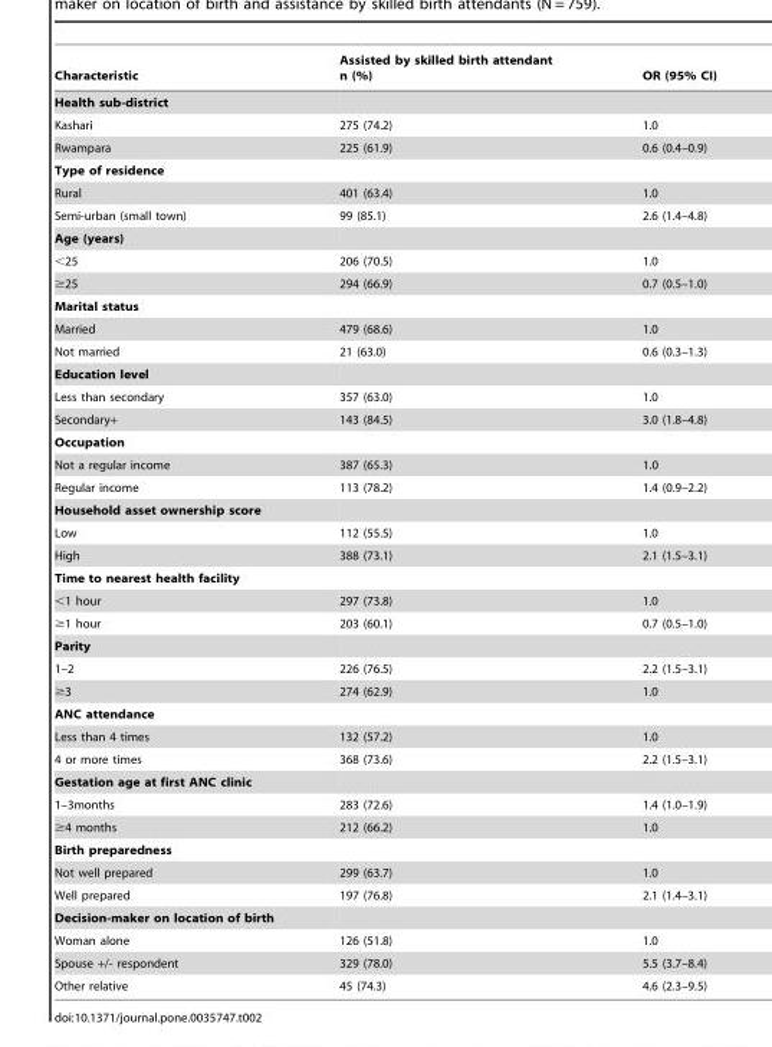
<table><thead><tr><td>Characteristic</td><td>Assisted by skilled birth attendant n (%)</td><td>OR (95% CI)</td></tr></thead><tbody><tr><td colspan="3">Health sub-district</td></tr><tr><td>Kashari</td><td>275 (74.2)</td><td>1.0</td></tr><tr><td>Rwampara</td><td>225 (61.9)</td><td>0.6 (0.4–0.9)</td></tr><tr><td colspan="3">Type of residence</td></tr><tr><td>Rural</td><td>401 (63.4)</td><td>1.0</td></tr><tr><td>Semi-urban (small town)</td><td>99 (85.1)</td><td>2.6 (1.4–4.8)</td></tr><tr><td colspan="3">Age (years)</td></tr><tr><td>&lt;25</td><td>206 (70.5)</td><td>1.0</td></tr><tr><td>≥25</td><td>294 (66.9)</td><td>0.7 (0.5–1.0)</td></tr><tr><td colspan="3">Marital status</td></tr><tr><td>Married</td><td>479 (68.6)</td><td>1.0</td></tr><tr><td>Not married</td><td>21 (63.0)</td><td>0.6 (0.3–1.3)</td></tr><tr><td colspan="3">Education level</td></tr><tr><td>Less than secondary</td><td>357 (63.0)</td><td>1.0</td></tr><tr><td>Secondary+</td><td>143 (84.5)</td><td>3.0 (1.8–4.8)</td></tr><tr><td colspan="3">Occupation</td></tr><tr><td>Not a regular income</td><td>387 (65.3)</td><td>1.0</td></tr><tr><td>Regular income</td><td>113 (78.2)</td><td>1.4 (0.9–2.2)</td></tr><tr><td colspan="3">Household asset ownership score</td></tr><tr><td>Low</td><td>112 (55.5)</td><td>1.0</td></tr><tr><td>High</td><td>388 (73.1)</td><td>2.1 (1.5–3.1)</td></tr><tr><td colspan="3">Time to nearest health facility</td></tr><tr><td>&lt;1 hour</td><td>297 (73.8)</td><td>1.0</td></tr><tr><td>≥1 hour</td><td>203 (60.1)</td><td>0.7 (0.5–1.0)</td></tr><tr><td colspan="3">Parity</td></tr><tr><td>1–2</td><td>226 (76.5)</td><td>2.2 (1.5–3.1)</td></tr><tr><td>≥3</td><td>274 (62.9)</td><td>1.0</td></tr><tr><td colspan="3">ANC attendance</td></tr><tr><td>Less than 4 times</td><td>132 (57.2)</td><td>1.0</td></tr><tr><td>4 or more times</td><td>368 (73.6)</td><td>2.2 (1.5–3.1)</td></tr><tr><td colspan="3">Gestation age at first ANC clinic</td></tr><tr><td>1–3months</td><td>283 (72.6)</td><td>1.4 (1.0–1.9)</td></tr><tr><td>≥4 months</td><td>212 (66.2)</td><td>1.0</td></tr><tr><td colspan="3">Birth preparedness</td></tr><tr><td>Not well prepared</td><td>299 (63.7)</td><td>1.0</td></tr><tr><td>Well prepared</td><td>197 (76.8)</td><td>2.1 (1.4–3.1)</td></tr><tr><td colspan="3">Decision-maker on location of birth</td></tr><tr><td>Woman alone</td><td>126 (51.8)</td><td>1.0</td></tr><tr><td>Spouse +/- respondent</td><td>329 (78.0)</td><td>5.5 (3.7–8.4)</td></tr><tr><td>Other relative</td><td>45 (74.3)</td><td>4.6 (2.3–9.5)</td></tr></tbody></table>